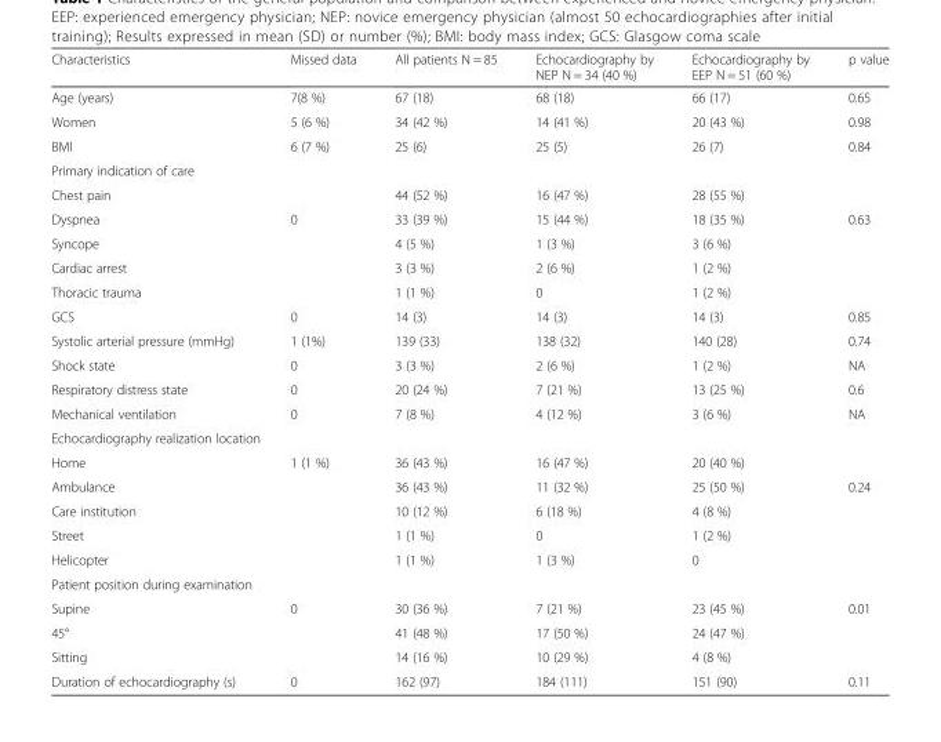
<table><thead><tr><td>Characteristics</td><td>Missed data</td><td>All patients N = 85</td><td>Echocardiography by NEP N = 34 (40 %)</td><td>Echocardiography by EEP N = 51 (60 %)</td><td>p value</td></tr></thead><tbody><tr><td>Age (years)</td><td>7(8 %)</td><td>67 (18)</td><td>68 (18)</td><td>66 (17)</td><td>0.65</td></tr><tr><td>Women</td><td>5 (6 %)</td><td>34 (42 %)</td><td>14 (41 %)</td><td>20 (43 %)</td><td>0.98</td></tr><tr><td>BMI</td><td>6 (7 %)</td><td>25 (6)</td><td>25 (5)</td><td>26 (7)</td><td>0.84</td></tr><tr><td colspan="6">Primary indication of care</td></tr><tr><td>Chest pain</td><td></td><td>44 (52 %)</td><td>16 (47 %)</td><td>28 (55 %)</td><td></td></tr><tr><td>Dyspnea</td><td>0</td><td>33 (39 %)</td><td>15 (44 %)</td><td>18 (35 %)</td><td>0.63</td></tr><tr><td>Syncope</td><td></td><td>4 (5 %)</td><td>1 (3 %)</td><td>3 (6 %)</td><td></td></tr><tr><td>Cardiac arrest</td><td></td><td>3 (3 %)</td><td>2 (6 %)</td><td>1 (2 %)</td><td></td></tr><tr><td>Thoracic trauma</td><td></td><td>1 (1 %)</td><td>0</td><td>1 (2 %)</td><td></td></tr><tr><td>GCS</td><td>0</td><td>14 (3)</td><td>14 (3)</td><td>14 (3)</td><td>0.85</td></tr><tr><td>Systolic arterial pressure (mmHg)</td><td>1 (1%)</td><td>139 (33)</td><td>138 (32)</td><td>140 (28)</td><td>0.74</td></tr><tr><td>Shock state</td><td>0</td><td>3 (3 %)</td><td>2 (6 %)</td><td>1 (2 %)</td><td>NA</td></tr><tr><td>Respiratory distress state</td><td>0</td><td>20 (24 %)</td><td>7 (21 %)</td><td>13 (25 %)</td><td>0.6</td></tr><tr><td>Mechanical ventilation</td><td>0</td><td>7 (8 %)</td><td>4 (12 %)</td><td>3 (6 %)</td><td>NA</td></tr><tr><td colspan="6">Echocardiography realization location</td></tr><tr><td>Home</td><td>1 (1 %)</td><td>36 (43 %)</td><td>16 (47 %)</td><td>20 (40 %)</td><td></td></tr><tr><td>Ambulance</td><td></td><td>36 (43 %)</td><td>11 (32 %)</td><td>25 (50 %)</td><td>0.24</td></tr><tr><td>Care institution</td><td></td><td>10 (12 %)</td><td>6 (18 %)</td><td>4 (8 %)</td><td></td></tr><tr><td>Street</td><td></td><td>1 (1 %)</td><td>0</td><td>1 (2 %)</td><td></td></tr><tr><td>Helicopter</td><td></td><td>1 (1 %)</td><td>1 (3 %)</td><td>0</td><td></td></tr><tr><td colspan="6">Patient position during examination</td></tr><tr><td>Supine</td><td>0</td><td>30 (36 %)</td><td>7 (21 %)</td><td>23 (45 %)</td><td>0.01</td></tr><tr><td>45°</td><td></td><td>41 (48 %)</td><td>17 (50 %)</td><td>24 (47 %)</td><td></td></tr><tr><td>Sitting</td><td></td><td>14 (16 %)</td><td>10 (29 %)</td><td>4 (8 %)</td><td></td></tr><tr><td>Duration of echocardiography (s)</td><td>0</td><td>162 (97)</td><td>184 (111)</td><td>151 (90)</td><td>0.11</td></tr></tbody></table>